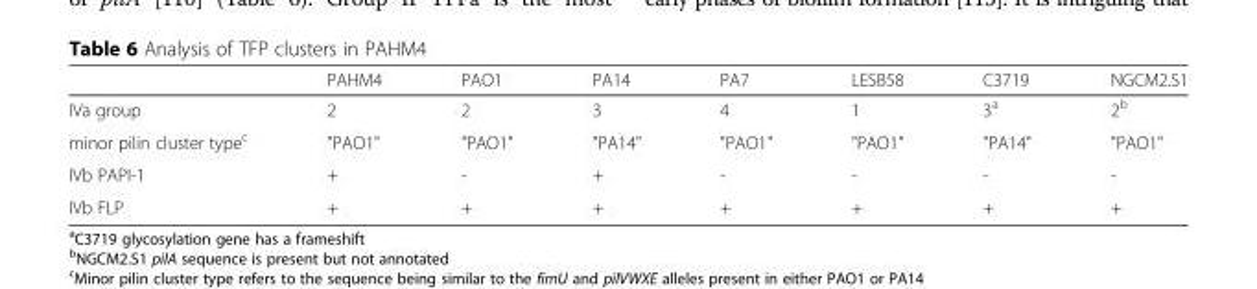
<table><thead><tr><td></td><td>PAHM4</td><td>PAO1</td><td>PA14</td><td>PA7</td><td>LESB58</td><td>C3719</td><td>NGCM2.S1</td></tr></thead><tbody><tr><td>IVa group</td><td>2</td><td>2</td><td>3</td><td>4</td><td>1</td><td>3<sup>a</sup></td><td>2<sup>b</sup></td></tr><tr><td>minor pilin cluster type<sup>c</sup></td><td>&quot;PAO1&quot;</td><td>&quot;PAO1&quot;</td><td>&quot;PA14&quot;</td><td>&quot;PAO1&quot;</td><td>&quot;PAO1&quot;</td><td>&quot;PA14&quot;</td><td>&quot;PAO1&quot;</td></tr><tr><td>IVb PAPI-1</td><td>+</td><td>-</td><td>+</td><td>-</td><td>-</td><td>-</td><td>-</td></tr><tr><td>IVb FLP</td><td>+</td><td>+</td><td>+</td><td>+</td><td>+</td><td>+</td><td>+</td></tr></tbody></table>